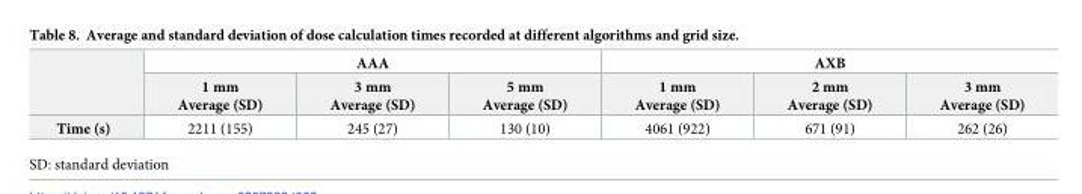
<table><thead><tr><td rowspan="2"></td><td colspan="3">AAA</td><td colspan="3">AXB</td></tr><tr><td>1 mm Average (SD)</td><td>3 mm Average (SD)</td><td>5 mm Average (SD)</td><td>1 mm Average (SD)</td><td>2 mm Average (SD)</td><td>3 mm Average (SD)</td></tr></thead><tbody><tr><td>Time (s)</td><td>2211 (155)</td><td>245 (27)</td><td>130 (10)</td><td>4061 (922)</td><td>671 (91)</td><td>262 (26)</td></tr></tbody></table>